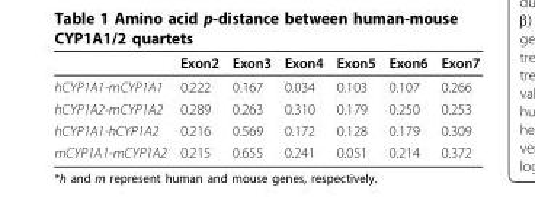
<table><thead><tr><td></td><td>Exon2</td><td>Exon3</td><td>Exon4</td><td>Exon5</td><td>Exon6</td><td>Exon7</td></tr></thead><tbody><tr><td>hCYP1A1-mCYP1A1</td><td>0.222</td><td>0.167</td><td>0.034</td><td>0.103</td><td>0.107</td><td>0.266</td></tr><tr><td>hCYP1A2-mCYP1A2</td><td>0.289</td><td>0.263</td><td>0.310</td><td>0.179</td><td>0.250</td><td>0.253</td></tr><tr><td>hCYP1A1-hCYP1A2</td><td>0.216</td><td>0.569</td><td>0.172</td><td>0.128</td><td>0.179</td><td>0.309</td></tr><tr><td>mCYP1A1-mCYP1A2</td><td>0.215</td><td>0.655</td><td>0.241</td><td>0.051</td><td>0.214</td><td>0.372</td></tr></tbody></table>